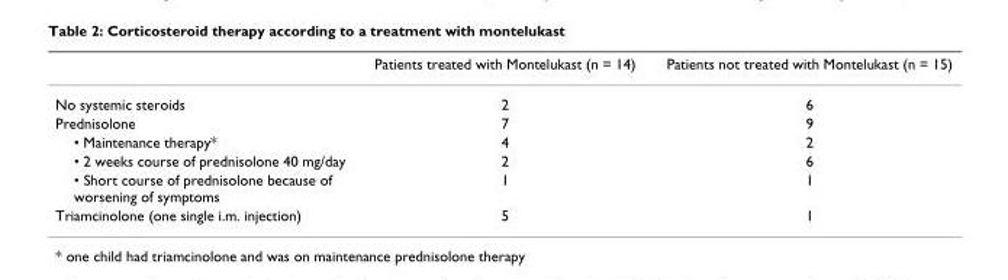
<table><thead><tr><td></td><td>Patients treated with Montelukast (n = 14)</td><td>Patients not treated with Montelukast (n = 15)</td></tr></thead><tbody><tr><td>No systemic steroids</td><td>2</td><td>6</td></tr><tr><td>Prednisolone</td><td>7</td><td>9</td></tr><tr><td>• Maintenance therapy*</td><td>4</td><td>2</td></tr><tr><td>• 2 weeks course of prednisolone 40 mg/day</td><td>2</td><td>6</td></tr><tr><td>• Short course of prednisolone because of worsening of symptoms</td><td>1</td><td>1</td></tr><tr><td>Triamcinolone (one single i.m. injection)</td><td>5</td><td>1</td></tr></tbody></table>